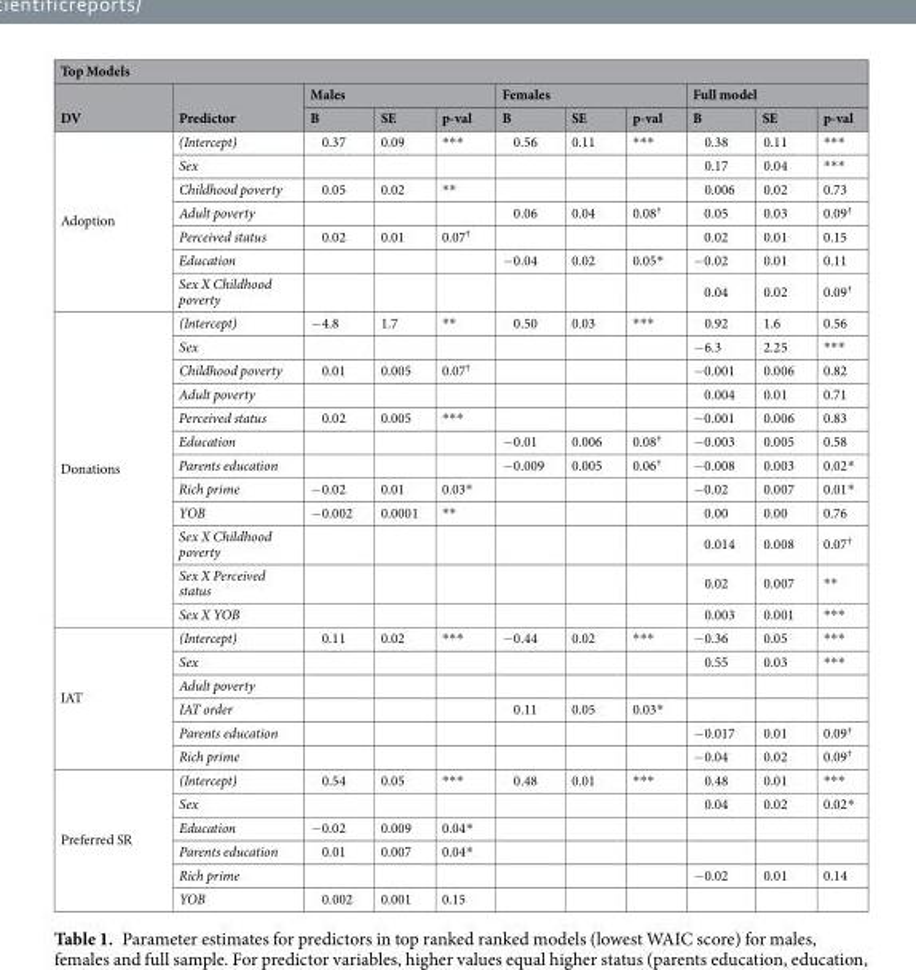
<table><thead><tr><td colspan="11">Top Models</td></tr><tr><td rowspan="2">DV</td><td rowspan="2">Predictor</td><td colspan="3">Males</td><td colspan="3">Females</td><td colspan="3">Full model</td></tr><tr><td>B</td><td>SE</td><td>p-val</td><td>B</td><td>SE</td><td>p-val</td><td>B</td><td>SE</td><td>p-val</td></tr></thead><tbody><tr><td rowspan="7">Adoption</td><td>(Intercept)</td><td>0.37</td><td>0.09</td><td>***</td><td>0.56</td><td>0.11</td><td>***</td><td>0.38</td><td>0.11</td><td>***</td></tr><tr><td>Sex</td><td></td><td></td><td></td><td></td><td></td><td></td><td>0.17</td><td>0.04</td><td>***</td></tr><tr><td>Childhood poverty</td><td>0.05</td><td>0.02</td><td>**</td><td></td><td></td><td></td><td>0.006</td><td>0.02</td><td>0.73</td></tr><tr><td>Adult poverty</td><td></td><td></td><td></td><td>0.06</td><td>0.04</td><td>0.08<sup>†</sup></td><td>0.05</td><td>0.03</td><td>0.09<sup>†</sup></td></tr><tr><td>Perceived status</td><td>0.02</td><td>0.01</td><td>0.07<sup>†</sup></td><td></td><td></td><td></td><td>0.02</td><td>0.01</td><td>0.15</td></tr><tr><td>Education</td><td></td><td></td><td></td><td>−0.04</td><td>0.02</td><td>0.05*</td><td>−0.02</td><td>0.01</td><td>0.11</td></tr><tr><td>Sex X Childhood poverty</td><td></td><td></td><td></td><td></td><td></td><td></td><td>0.04</td><td>0.02</td><td>0.09<sup>†</sup></td></tr><tr><td rowspan="12">Donations</td><td>(Intercept)</td><td>−4.8</td><td>1.7</td><td>**</td><td>0.50</td><td>0.03</td><td>***</td><td>0.92</td><td>1.6</td><td>0.56</td></tr><tr><td>Sex</td><td></td><td></td><td></td><td></td><td></td><td></td><td>−6.3</td><td>2.25</td><td>***</td></tr><tr><td>Childhood poverty</td><td>0.01</td><td>0.005</td><td>0.07<sup>†</sup></td><td></td><td></td><td></td><td>−0.001</td><td>0.006</td><td>0.82</td></tr><tr><td>Adult poverty</td><td></td><td></td><td></td><td></td><td></td><td></td><td>0.004</td><td>0.01</td><td>0.71</td></tr><tr><td>Perceived status</td><td>0.02</td><td>0.005</td><td>***</td><td></td><td></td><td></td><td>−0.001</td><td>0.006</td><td>0.83</td></tr><tr><td>Education</td><td></td><td></td><td></td><td>−0.01</td><td>0.006</td><td>0.08<sup>†</sup></td><td>−0.003</td><td>0.005</td><td>0.58</td></tr><tr><td>Parents education</td><td></td><td></td><td></td><td>−0.009</td><td>0.005</td><td>0.06<sup>†</sup></td><td>−0.008</td><td>0.003</td><td>0.02*</td></tr><tr><td>Rich prime</td><td>−0.02</td><td>0.01</td><td>0.03*</td><td></td><td></td><td></td><td>−0.02</td><td>0.007</td><td>0.01*</td></tr><tr><td>YOB</td><td>−0.002</td><td>0.0001</td><td>**</td><td></td><td></td><td></td><td>0.00</td><td>0.00</td><td>0.76</td></tr><tr><td>Sex X Childhood poverty</td><td></td><td></td><td></td><td></td><td></td><td></td><td>0.014</td><td>0.008</td><td>0.07<sup>†</sup></td></tr><tr><td>Sex X Perceived status</td><td></td><td></td><td></td><td></td><td></td><td></td><td>0.02</td><td>0.007</td><td>**</td></tr><tr><td>Sex X YOB</td><td></td><td></td><td></td><td></td><td></td><td></td><td>0.003</td><td>0.001</td><td>***</td></tr><tr><td rowspan="6">IAT</td><td>(Intercept)</td><td>0.11</td><td>0.02</td><td>***</td><td>−0.44</td><td>0.02</td><td>***</td><td>−0.36</td><td>0.05</td><td>***</td></tr><tr><td>Sex</td><td></td><td></td><td></td><td></td><td></td><td></td><td>0.55</td><td>0.03</td><td>***</td></tr><tr><td>Adult poverty</td><td></td><td></td><td></td><td></td><td></td><td></td><td></td><td></td><td></td></tr><tr><td>IAT order</td><td></td><td></td><td></td><td>0.11</td><td>0.05</td><td>0.03*</td><td></td><td></td><td></td></tr><tr><td>Parents education</td><td></td><td></td><td></td><td></td><td></td><td></td><td>−0.017</td><td>0.01</td><td>0.09<sup>†</sup></td></tr><tr><td>Rich prime</td><td></td><td></td><td></td><td></td><td></td><td></td><td>−0.04</td><td>0.02</td><td>0.09<sup>†</sup></td></tr><tr><td rowspan="6">Preferred SR</td><td>(Intercept)</td><td>0.54</td><td>0.05</td><td>***</td><td>0.48</td><td>0.01</td><td>***</td><td>0.48</td><td>0.01</td><td>***</td></tr><tr><td>Sex</td><td></td><td></td><td></td><td></td><td></td><td></td><td>0.04</td><td>0.02</td><td>0.02*</td></tr><tr><td>Education</td><td>−0.02</td><td>0.009</td><td>0.04*</td><td></td><td></td><td></td><td></td><td></td><td></td></tr><tr><td>Parents education</td><td>0.01</td><td>0.007</td><td>0.04*</td><td></td><td></td><td></td><td></td><td></td><td></td></tr><tr><td>Rich prime</td><td></td><td></td><td></td><td></td><td></td><td></td><td>−0.02</td><td>0.01</td><td>0.14</td></tr><tr><td>YOB</td><td>0.002</td><td>0.001</td><td>0.15</td><td></td><td></td><td></td><td></td><td></td><td></td></tr></tbody></table>